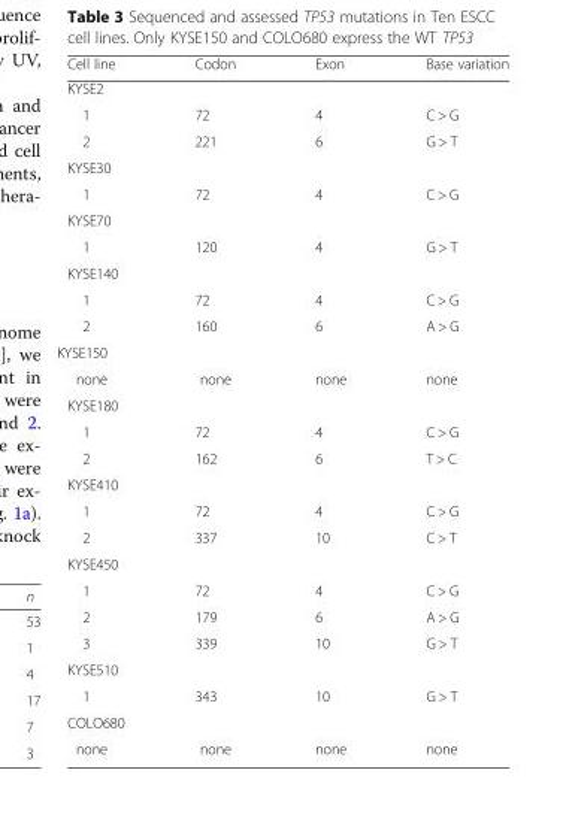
<table><thead><tr><td>Cell line</td><td>Codon</td><td>Exon</td><td>Base variation</td></tr></thead><tbody><tr><td colspan="4">KYSE2</td></tr><tr><td>1</td><td>72</td><td>4</td><td>C &gt; G</td></tr><tr><td>2</td><td>221</td><td>6</td><td>G &gt; T</td></tr><tr><td colspan="4">KYSE30</td></tr><tr><td>1</td><td>72</td><td>4</td><td>C &gt; G</td></tr><tr><td colspan="4">KYSE70</td></tr><tr><td>1</td><td>120</td><td>4</td><td>G &gt; T</td></tr><tr><td colspan="4">KYSE140</td></tr><tr><td>1</td><td>72</td><td>4</td><td>C &gt; G</td></tr><tr><td>2</td><td>160</td><td>6</td><td>A &gt; G</td></tr><tr><td colspan="4">KYSE150</td></tr><tr><td>none</td><td>none</td><td>none</td><td>none</td></tr><tr><td colspan="4">KYSE180</td></tr><tr><td>1</td><td>72</td><td>4</td><td>C &gt; G</td></tr><tr><td>2</td><td>162</td><td>6</td><td>T &gt; C</td></tr><tr><td colspan="4">KYSE410</td></tr><tr><td>1</td><td>72</td><td>4</td><td>C &gt; G</td></tr><tr><td>2</td><td>337</td><td>10</td><td>C &gt; T</td></tr><tr><td colspan="4">KYSE450</td></tr><tr><td>1</td><td>72</td><td>4</td><td>C &gt; G</td></tr><tr><td>2</td><td>179</td><td>6</td><td>A &gt; G</td></tr><tr><td>3</td><td>339</td><td>10</td><td>G &gt; T</td></tr><tr><td colspan="4">KYSE510</td></tr><tr><td>1</td><td>343</td><td>10</td><td>G &gt; T</td></tr><tr><td colspan="4">COLO680</td></tr><tr><td>none</td><td>none</td><td>none</td><td>none</td></tr></tbody></table>